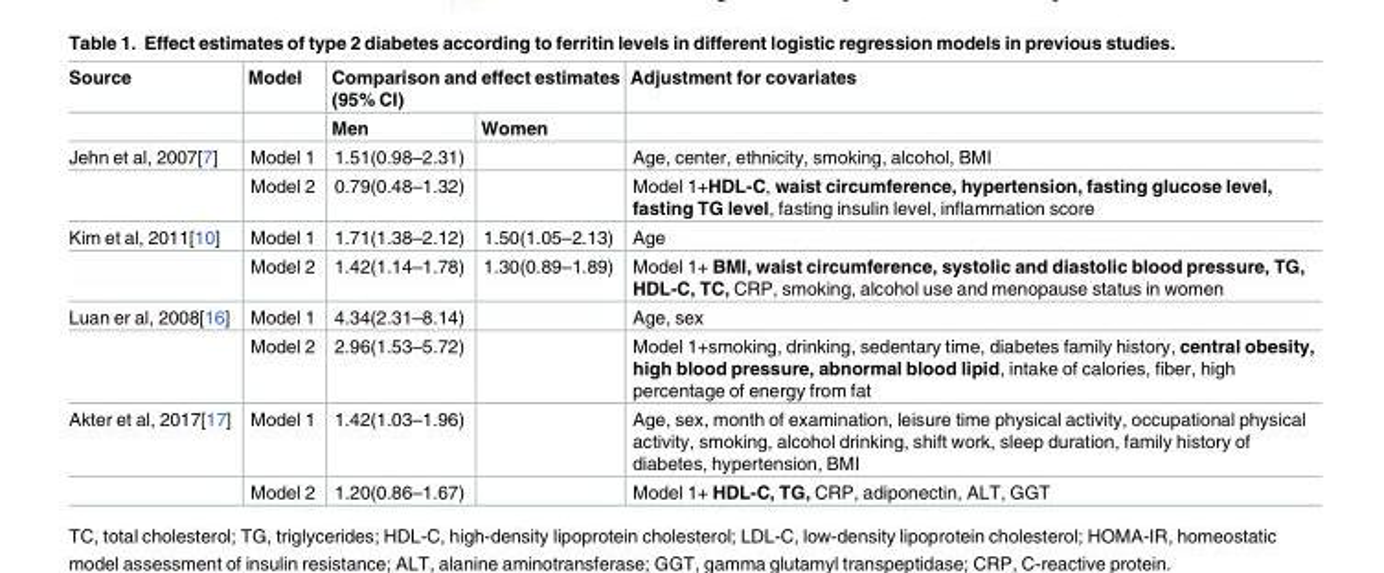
<table><thead><tr><td rowspan="2">Source</td><td rowspan="2">Model</td><td colspan="2">Comparison and effect estimates (95% CI)</td><td rowspan="2">Adjustment for covariates</td></tr><tr><td>Men</td><td>Women</td></tr></thead><tbody><tr><td rowspan="2">Jehn et al, 2007[7]</td><td>Model 1</td><td>1.51(0.98–2.31)</td><td></td><td>Age, center, ethnicity, smoking, alcohol, BMI</td></tr><tr><td>Model 2</td><td>0.79(0.48–1.32)</td><td></td><td>Model 1+HDL-C, waist circumference, hypertension, fasting glucose level, fasting TG level, fasting insulin level, inflammation score</td></tr><tr><td rowspan="2">Kim et al, 2011[10]</td><td>Model 1</td><td>1.71(1.38–2.12)</td><td>1.50(1.05–2.13)</td><td>Age</td></tr><tr><td>Model 2</td><td>1.42(1.14–1.78)</td><td>1.30(0.89–1.89)</td><td>Model 1+ BMI, waist circumference, systolic and diastolic blood pressure, TG, HDL-C, TC, CRP, smoking, alcohol use and menopause status in women</td></tr><tr><td rowspan="2">Luan er al, 2008[16]</td><td>Model 1</td><td>4.34(2.31–8.14)</td><td></td><td>Age, sex</td></tr><tr><td>Model 2</td><td>2.96(1.53–5.72)</td><td></td><td>Model 1+smoking, drinking, sedentary time, diabetes family history, central obesity, high blood pressure, abnormal blood lipid, intake of calories, fiber, high percentage of energy from fat</td></tr><tr><td rowspan="2">Akter et al, 2017[17]</td><td>Model 1</td><td>1.42(1.03–1.96)</td><td></td><td>Age, sex, month of examination, leisure time physical activity, occupational physical activity, smoking, alcohol drinking, shift work, sleep duration, family history of diabetes, hypertension, BMI</td></tr><tr><td>Model 2</td><td>1.20(0.86–1.67)</td><td></td><td>Model 1+ HDL-C, TG, CRP, adiponectin, ALT, GGT</td></tr></tbody></table>